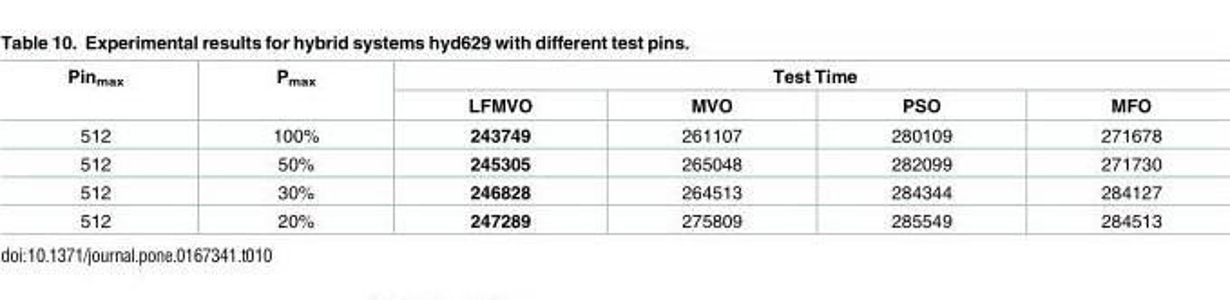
<table><thead><tr><td rowspan="2">Pin<sub>max</sub></td><td rowspan="2">P<sub>max</sub></td><td colspan="4">Test Time</td></tr><tr><td>LFMVO</td><td>MVO</td><td>PSO</td><td>MFO</td></tr></thead><tbody><tr><td>512</td><td>100%</td><td>243749</td><td>261107</td><td>280109</td><td>271678</td></tr><tr><td>512</td><td>50%</td><td>245305</td><td>265048</td><td>282099</td><td>271730</td></tr><tr><td>512</td><td>30%</td><td>246828</td><td>264513</td><td>284344</td><td>284127</td></tr><tr><td>512</td><td>20%</td><td>247289</td><td>275809</td><td>285549</td><td>284513</td></tr></tbody></table>